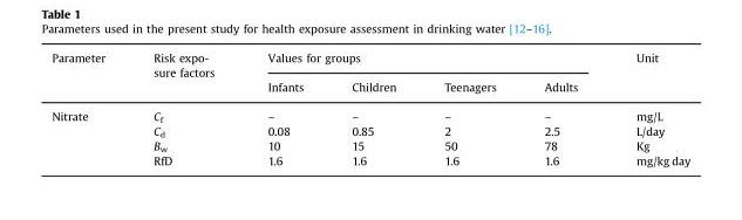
<table><thead><tr><td rowspan="2">Parameter</td><td rowspan="2">Risk expo- sure factors</td><td colspan="4">Values for groups</td><td rowspan="2">Unit</td></tr><tr><td>Infants</td><td>Children</td><td>Teenagers</td><td>Adults</td></tr></thead><tbody><tr><td rowspan="4">Nitrate</td><td>C<sub>f</sub></td><td>–</td><td>–</td><td>–</td><td>–</td><td>mg/L</td></tr><tr><td>C<sub>d</sub></td><td>0.08</td><td>0.85</td><td>2</td><td>2.5</td><td>L/day</td></tr><tr><td>B<sub>w</sub></td><td>10</td><td>15</td><td>50</td><td>78</td><td>Kg</td></tr><tr><td>RfD</td><td>1.6</td><td>1.6</td><td>1.6</td><td>1.6</td><td>mg/kg day</td></tr></tbody></table>